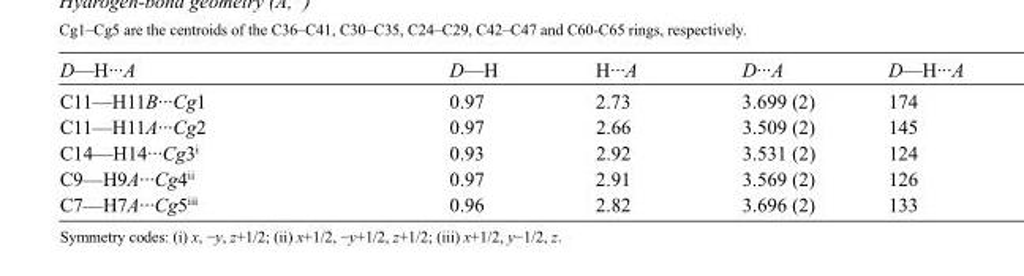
<table><tbody><tr><td>D—H···A</td><td>D—H</td><td>H···A</td><td>D···A</td><td>D—H···A</td></tr><tr><td>C11—H11B···Cg1</td><td>0.97</td><td>2.73</td><td>3.699 (2)</td><td>174</td></tr><tr><td>C11—H11A···Cg2</td><td>0.97</td><td>2.66</td><td>3.509 (2)</td><td>145</td></tr><tr><td>C14—H14···Cg3<sup>i</sup></td><td>0.93</td><td>2.92</td><td>3.531 (2)</td><td>124</td></tr><tr><td>C9—H9A···Cg4<sup>ii</sup></td><td>0.97</td><td>2.91</td><td>3.569 (2)</td><td>126</td></tr><tr><td>C7—H7A···Cg5<sup>iii</sup></td><td>0.96</td><td>2.82</td><td>3.696 (2)</td><td>133</td></tr></tbody></table>